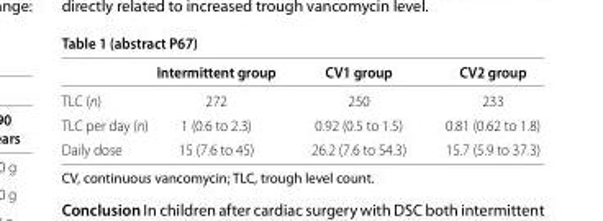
<table><thead><tr><td></td><td>Intermittent group</td><td>CV1 group</td><td>CV2 group</td></tr></thead><tbody><tr><td>TLC (n)</td><td>272</td><td>250</td><td>233</td></tr><tr><td>TLC per day (n)</td><td>1 (0.6 to 2.3)</td><td>0.92 (0.5 to 1.5)</td><td>0.81 (0.62 to 1.8)</td></tr><tr><td>Daily dose</td><td>15 (7.6 to 45)</td><td>26.2 (7.6 to 54.3)</td><td>15.7 (5.9 to 37.3)</td></tr></tbody></table>